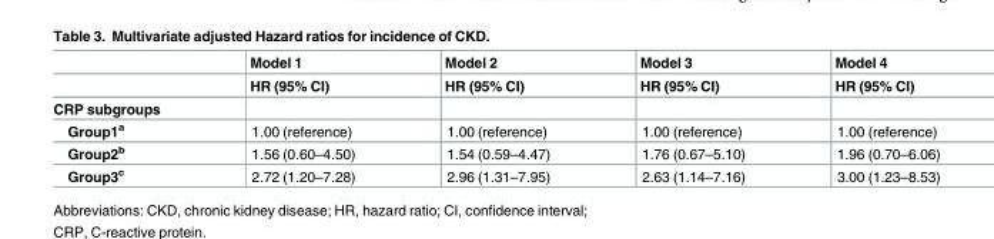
<table><thead><tr><td rowspan="2"></td><td rowspan="2">Model 1 HR (95% CI)</td><td rowspan="2">Model 2 HR (95% CI)</td><td rowspan="2">Model 3 HR (95% CI)</td><td rowspan="2">Model 4 HR (95% CI)</td></tr><tr></tr></thead><tbody><tr><td colspan="5">CRP subgroups</td></tr><tr><td>Group1<sup>a</sup></td><td>1.00 (reference)</td><td>1.00 (reference)</td><td>1.00 (reference)</td><td>1.00 (reference)</td></tr><tr><td>Group2<sup>b</sup></td><td>1.56 (0.60–4.50)</td><td>1.54 (0.59–4.47)</td><td>1.76 (0.67–5.10)</td><td>1.96 (0.70–6.06)</td></tr><tr><td>Group3<sup>c</sup></td><td>2.72 (1.20–7.28)</td><td>2.96 (1.31–7.95)</td><td>2.63 (1.14–7.16)</td><td>3.00 (1.23–8.53)</td></tr></tbody></table>